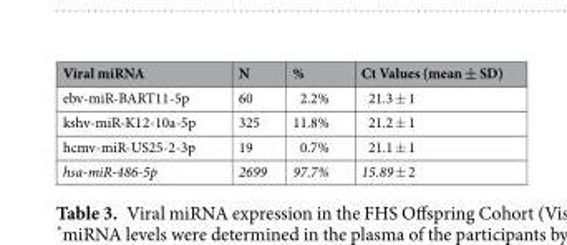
<table><thead><tr><td>Viral miRNA</td><td>N</td><td>%</td><td>Ct Values (mean ± SD)</td></tr></thead><tbody><tr><td>ebv-miR-BART11-5p</td><td>60</td><td>2.2%</td><td>21.3 ± 1</td></tr><tr><td>kshv-miR-K12-10a-5p</td><td>325</td><td>11.8%</td><td>21.2 ± 1</td></tr><tr><td>hcmv-miR-US25-2-3p</td><td>19</td><td>0.7%</td><td>21.1 ± 1</td></tr><tr><td>hsa-miR-486-5p</td><td>2699</td><td>97.7%</td><td>15.89 ± 2</td></tr></tbody></table>